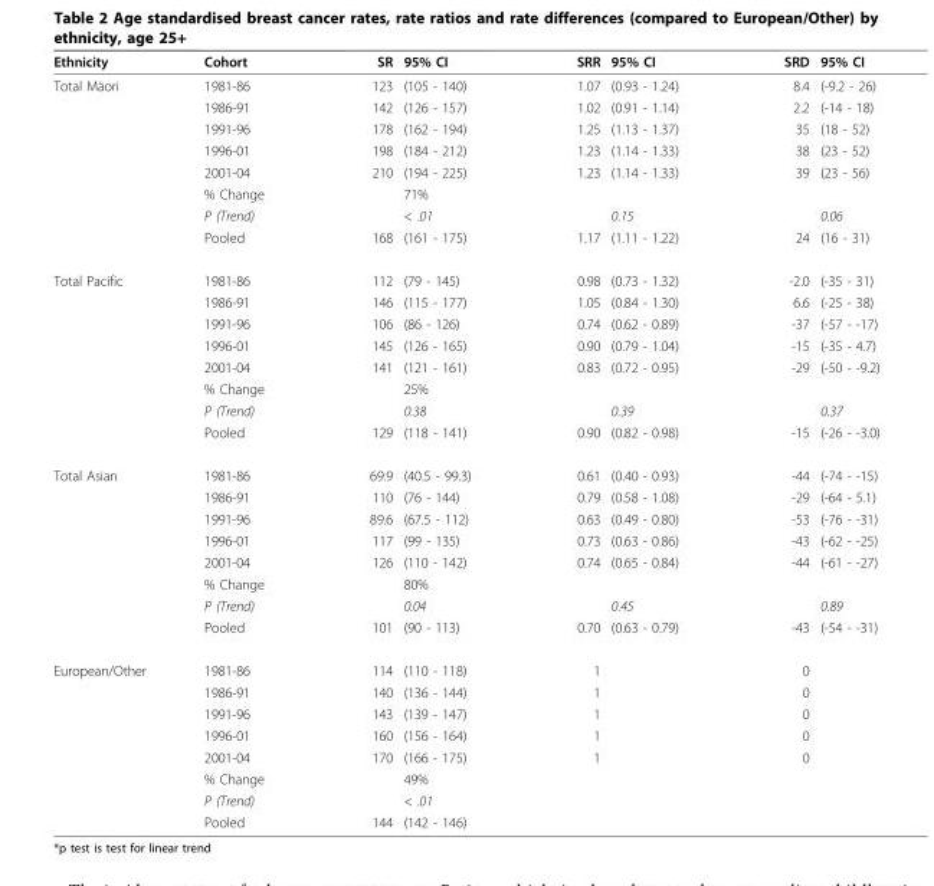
<table><thead><tr><td>Ethnicity</td><td>Cohort</td><td>SR</td><td>95% CI</td><td>SRR</td><td>95% CI</td><td>SRD</td><td>95% CI</td></tr></thead><tbody><tr><td rowspan="8">Total Mäori</td><td>1981-86</td><td>123</td><td>(105 - 140)</td><td>1.07</td><td>(0.93 - 1.24)</td><td>8.4</td><td>(-9.2 - 26)</td></tr><tr><td>1986-91</td><td>142</td><td>(126 - 157)</td><td>1.02</td><td>(0.91 - 1.14)</td><td>2.2</td><td>(-14 - 18)</td></tr><tr><td>1991-96</td><td>178</td><td>(162 - 194)</td><td>1.25</td><td>(1.13 - 1.37)</td><td>35</td><td>(18 - 52)</td></tr><tr><td>1996-01</td><td>198</td><td>(184 - 212)</td><td>1.23</td><td>(1.14 - 1.33)</td><td>38</td><td>(23 - 52)</td></tr><tr><td>2001-04</td><td>210</td><td>(194 - 225)</td><td>1.23</td><td>(1.14 - 1.33)</td><td>39</td><td>(23 - 56)</td></tr><tr><td>% Change</td><td></td><td>71%</td><td></td><td></td><td></td><td></td></tr><tr><td>P (Trend)</td><td></td><td>&lt; .01</td><td></td><td>0.15</td><td></td><td>0.06</td></tr><tr><td>Pooled</td><td>168</td><td>(161 - 175)</td><td>1.17</td><td>(1.11 - 1.22)</td><td>24</td><td>(16 - 31)</td></tr><tr><td rowspan="8">Total Pacific</td><td>1981-86</td><td>112</td><td>(79 - 145)</td><td>0.98</td><td>(0.73 - 1.32)</td><td>-2.0</td><td>(-35 - 31)</td></tr><tr><td>1986-91</td><td>146</td><td>(115 - 177)</td><td>1.05</td><td>(0.84 - 1.30)</td><td>6.6</td><td>(-25 - 38)</td></tr><tr><td>1991-96</td><td>106</td><td>(86 - 126)</td><td>0.74</td><td>(0.62 - 0.89)</td><td>-37</td><td>(-57 - -17)</td></tr><tr><td>1996-01</td><td>145</td><td>(126 - 165)</td><td>0.90</td><td>(0.79 - 1.04)</td><td>-15</td><td>(-35 - 4.7)</td></tr><tr><td>2001-04</td><td>141</td><td>(121 - 161)</td><td>0.83</td><td>(0.72 - 0.95)</td><td>-29</td><td>(-50 - -9.2)</td></tr><tr><td>% Change</td><td></td><td>25%</td><td></td><td></td><td></td><td></td></tr><tr><td>P (Trend)</td><td></td><td>0.38</td><td></td><td>0.39</td><td></td><td>0.37</td></tr><tr><td>Pooled</td><td>129</td><td>(118 - 141)</td><td>0.90</td><td>(0.82 - 0.98)</td><td>-15</td><td>(-26 - -3.0)</td></tr><tr><td rowspan="8">Total Asian</td><td>1981-86</td><td>69.9</td><td>(40.5 - 99.3)</td><td>0.61</td><td>(0.40 - 0.93)</td><td>-44</td><td>(-74 - -15)</td></tr><tr><td>1986-91</td><td>110</td><td>(76 - 144)</td><td>0.79</td><td>(0.58 - 1.08)</td><td>-29</td><td>(-64 - 5.1)</td></tr><tr><td>1991-96</td><td>89.6</td><td>(67.5 - 112)</td><td>0.63</td><td>(0.49 - 0.80)</td><td>-53</td><td>(-76 - -31)</td></tr><tr><td>1996-01</td><td>117</td><td>(99 - 135)</td><td>0.73</td><td>(0.63 - 0.86)</td><td>-43</td><td>(-62 - -25)</td></tr><tr><td>2001-04</td><td>126</td><td>(110 - 142)</td><td>0.74</td><td>(0.65 - 0.84)</td><td>-44</td><td>(-61 - -27)</td></tr><tr><td>% Change</td><td></td><td>80%</td><td></td><td></td><td></td><td></td></tr><tr><td>P (Trend)</td><td></td><td>0.04</td><td></td><td>0.45</td><td></td><td>0.89</td></tr><tr><td>Pooled</td><td>101</td><td>(90 - 113)</td><td>0.70</td><td>(0.63 - 0.79)</td><td>-43</td><td>(-54 - -31)</td></tr><tr><td rowspan="8">European/Other</td><td>1981-86</td><td>114</td><td>(110 - 118)</td><td>1</td><td></td><td>0</td><td></td></tr><tr><td>1986-91</td><td>140</td><td>(136 - 144)</td><td>1</td><td></td><td>0</td><td></td></tr><tr><td>1991-96</td><td>143</td><td>(139 - 147)</td><td>1</td><td></td><td>0</td><td></td></tr><tr><td>1996-01</td><td>160</td><td>(156 - 164)</td><td>1</td><td></td><td>0</td><td></td></tr><tr><td>2001-04</td><td>170</td><td>(166 - 175)</td><td>1</td><td></td><td>0</td><td></td></tr><tr><td>% Change</td><td></td><td>49%</td><td></td><td></td><td></td><td></td></tr><tr><td>P (Trend)</td><td></td><td>&lt; .01</td><td></td><td></td><td></td><td></td></tr><tr><td>Pooled</td><td>144</td><td>(142 - 146)</td><td></td><td></td><td></td><td></td></tr></tbody></table>